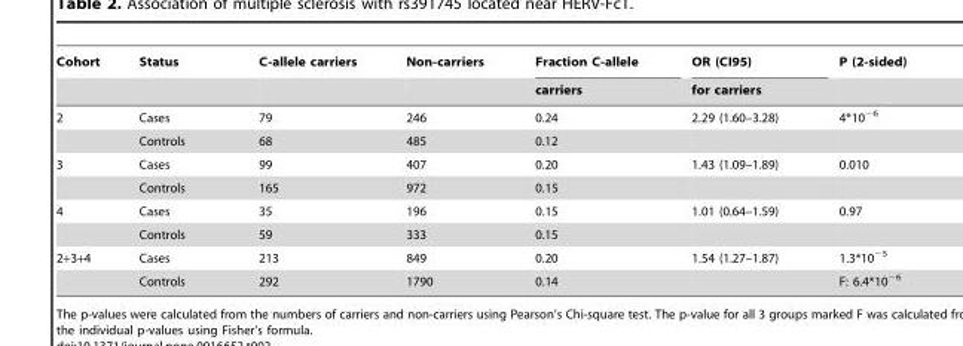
<table><thead><tr><td rowspan="2">Cohort</td><td rowspan="2">Status</td><td rowspan="2">C-allele carriers</td><td rowspan="2">Non-carriers</td><td rowspan="2">Fraction C-allele carriers</td><td rowspan="2">OR (CI95) for carriers</td><td rowspan="2">P (2-sided)</td></tr><tr></tr></thead><tbody><tr><td rowspan="2">2</td><td>Cases</td><td>79</td><td>246</td><td>0.24</td><td>2.29 (1.60–3.28)</td><td>4*10<sup>−6</sup></td></tr><tr><td>Controls</td><td>68</td><td>485</td><td>0.12</td><td></td><td></td></tr><tr><td rowspan="2">3</td><td>Cases</td><td>99</td><td>407</td><td>0.20</td><td>1.43 (1.09–1.89)</td><td>0.010</td></tr><tr><td>Controls</td><td>165</td><td>972</td><td>0.15</td><td></td><td></td></tr><tr><td rowspan="2">4</td><td>Cases</td><td>35</td><td>196</td><td>0.15</td><td>1.01 (0.64–1.59)</td><td>0.97</td></tr><tr><td>Controls</td><td>59</td><td>333</td><td>0.15</td><td></td><td></td></tr><tr><td rowspan="2">2+3+4</td><td>Cases</td><td>213</td><td>849</td><td>0.20</td><td>1.54 (1.27–1.87)</td><td>1.3*10<sup>−5</sup></td></tr><tr><td>Controls</td><td>292</td><td>1790</td><td>0.14</td><td></td><td>F: 6.4*10<sup>−6</sup></td></tr></tbody></table>